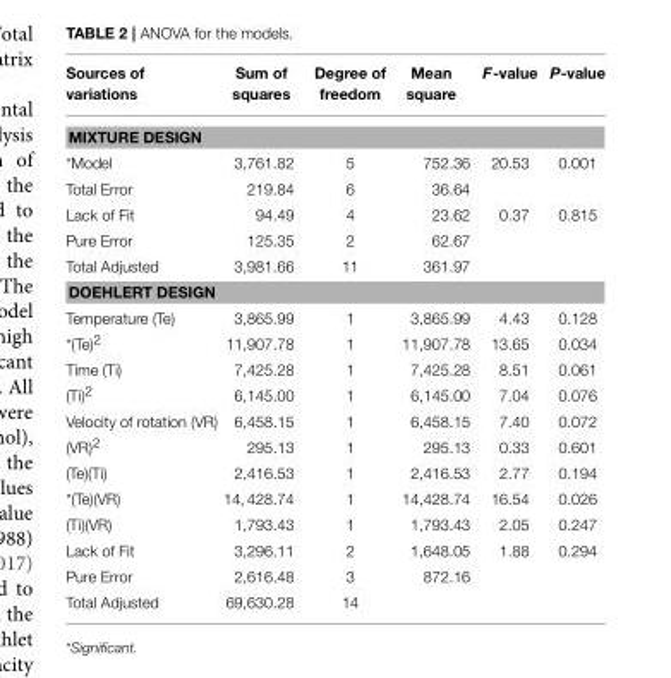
<table><thead><tr><td>Sources of variations</td><td>Sum of squares</td><td>Degree of freedom</td><td>Mean square</td><td>F-value</td><td>P-value</td></tr></thead><tbody><tr><td colspan="6">MIXTURE DESIGN</td></tr><tr><td>*Model</td><td>3,761.82</td><td>5</td><td>752.36</td><td>20.53</td><td>0.001</td></tr><tr><td>Total Error</td><td>219.84</td><td>6</td><td>36.64</td><td></td><td></td></tr><tr><td>Lack of Fit</td><td>94.49</td><td>4</td><td>23.62</td><td>0.37</td><td>0.815</td></tr><tr><td>Pure Error</td><td>125.35</td><td>2</td><td>62.67</td><td></td><td></td></tr><tr><td>Total Adjusted</td><td>3,981.66</td><td>11</td><td>361.97</td><td></td><td></td></tr><tr><td colspan="6">DOEHLERT DESIGN</td></tr><tr><td>Temperature (Te)</td><td>3,865.99</td><td>1</td><td>3,865.99</td><td>4.43</td><td>0.128</td></tr><tr><td>*(Te)<sup>2</sup></td><td>11,907.78</td><td>1</td><td>11,907.78</td><td>13.65</td><td>0.034</td></tr><tr><td>Time (Ti)</td><td>7,425.28</td><td>1</td><td>7,425.28</td><td>8.51</td><td>0.061</td></tr><tr><td>(Ti)<sup>2</sup></td><td>6,145.00</td><td>1</td><td>6,145.00</td><td>7.04</td><td>0.076</td></tr><tr><td>Velocity of rotation (VR)</td><td>6,458.15</td><td>1</td><td>6,458.15</td><td>7.40</td><td>0.072</td></tr><tr><td>(VR)<sup>2</sup></td><td>295.13</td><td>1</td><td>295.13</td><td>0.33</td><td>0.601</td></tr><tr><td>(Te)(Ti)</td><td>2,416.53</td><td>1</td><td>2,416.53</td><td>2.77</td><td>0.194</td></tr><tr><td>*(Te)(VR)</td><td>14, 428.74</td><td>1</td><td>14,428.74</td><td>16.54</td><td>0.026</td></tr><tr><td>(Ti)(VR)</td><td>1,793.43</td><td>1</td><td>1,793.43</td><td>2.05</td><td>0.247</td></tr><tr><td>Lack of Fit</td><td>3,296.11</td><td>2</td><td>1,648.05</td><td>1.88</td><td>0.294</td></tr><tr><td>Pure Error</td><td>2,616.48</td><td>3</td><td>872.16</td><td></td><td></td></tr><tr><td>Total Adjusted</td><td>69,630.28</td><td>14</td><td></td><td></td><td></td></tr></tbody></table>